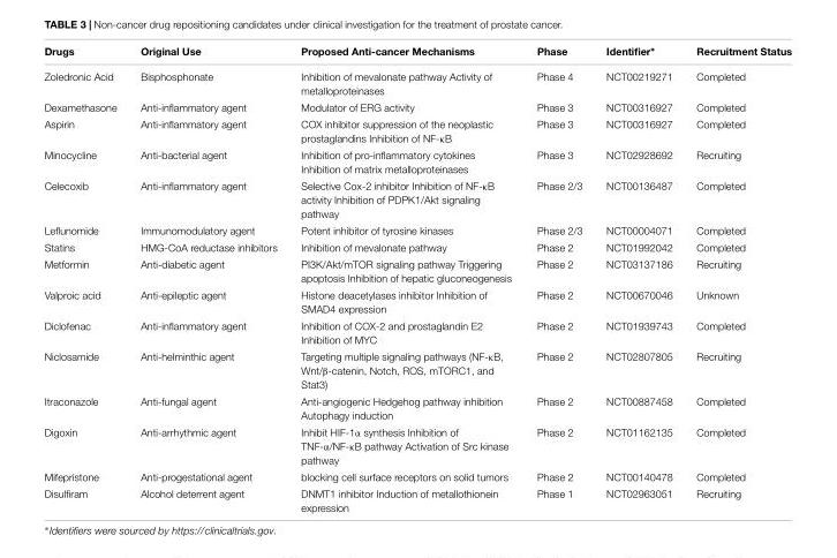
<table><thead><tr><td>Drugs</td><td>Original Use</td><td>Proposed Anti-cancer Mechanisms</td><td>Phase</td><td>Identifier∗</td><td>Recruitment Status</td></tr></thead><tbody><tr><td>Zoledronic Acid</td><td>Bisphosphonate</td><td>Inhibition of mevalonate pathway Activity of metalloproteinases</td><td>Phase 4</td><td>NCT00219271</td><td>Completed</td></tr><tr><td>Dexamethasone</td><td>Anti-inflammatory agent</td><td>Modulator of ERG activity</td><td>Phase 3</td><td>NCT00316927</td><td>Completed</td></tr><tr><td>Aspirin</td><td>Anti-inflammatory agent</td><td>COX inhibitor suppression of the neoplastic prostaglandins Inhibition of NF-κB</td><td>Phase 3</td><td>NCT00316927</td><td>Completed</td></tr><tr><td>Minocycline</td><td>Anti-bacterial agent</td><td>Inhibition of pro-inflammatory cytokines Inhibition of matrix metalloproteinases</td><td>Phase 3</td><td>NCT02928692</td><td>Recruiting</td></tr><tr><td>Celecoxib</td><td>Anti-inflammatory agent</td><td>Selective Cox-2 inhibitor Inhibition of NF-κB activity Inhibition of PDPK1/Akt signaling pathway</td><td>Phase 2/3</td><td>NCT00136487</td><td>Completed</td></tr><tr><td>Leflunomide</td><td>Immunomodulatory agent</td><td>Potent inhibitor of tyrosine kinases</td><td>Phase 2/3</td><td>NCT00004071</td><td>Completed</td></tr><tr><td>Statins</td><td>HMG-CoA reductase inhibitors</td><td>Inhibition of mevalonate pathway</td><td>Phase 2</td><td>NCT01992042</td><td>Completed</td></tr><tr><td>Metformin</td><td>Anti-diabetic agent</td><td>PI3K/Akt/mTOR signaling pathway Triggering apoptosis Inhibition of hepatic gluconeogenesis</td><td>Phase 2</td><td>NCT03137186</td><td>Recruiting</td></tr><tr><td>Valproic acid</td><td>Anti-epileptic agent</td><td>Histone deacetylases inhibitor Inhibition of SMAD4 expression</td><td>Phase 2</td><td>NCT00670046</td><td>Unknown</td></tr><tr><td>Diclofenac</td><td>Anti-inflammatory agent</td><td>Inhibition of COX-2 and prostaglandin E2 Inhibition of MYC</td><td>Phase 2</td><td>NCT01939743</td><td>Completed</td></tr><tr><td>Niclosamide</td><td>Anti-helminthic agent</td><td>Targeting multiple signaling pathways (NF-κB, Wnt/β-catenin, Notch, ROS, mTORC1, and Stat3)</td><td>Phase 2</td><td>NCT02807805</td><td>Recruiting</td></tr><tr><td>Itraconazole</td><td>Anti-fungal agent</td><td>Anti-angiogenic Hedgehog pathway inhibition Autophagy induction</td><td>Phase 2</td><td>NCT00887458</td><td>Completed</td></tr><tr><td>Digoxin</td><td>Anti-arrhythmic agent</td><td>Inhibit HIF-1α synthesis Inhibition of TNF-α/NF-κB pathway Activation of Src kinase pathway</td><td>Phase 2</td><td>NCT01162135</td><td>Completed</td></tr><tr><td>Mifepristone</td><td>Anti-progestational agent</td><td>blocking cell surface receptors on solid tumors</td><td>Phase 2</td><td>NCT00140478</td><td>Completed</td></tr><tr><td>Disulfiram</td><td>Alcohol deterrent agent</td><td>DNMT1 inhibitor Induction of metallothionein expression</td><td>Phase 1</td><td>NCT02963051</td><td>Recruiting</td></tr></tbody></table>